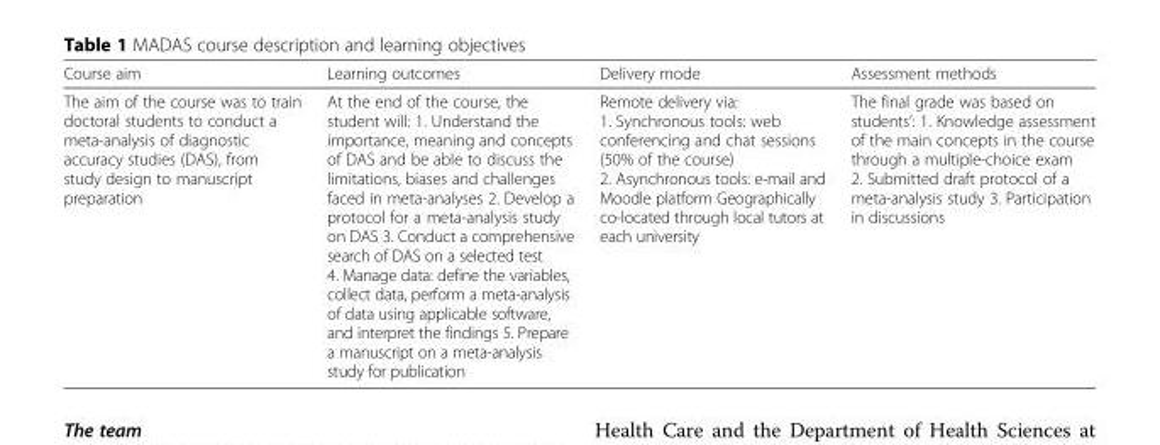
<table><thead><tr><td>Course aim</td><td>Learning outcomes</td><td>Delivery mode</td><td>Assessment methods</td></tr></thead><tbody><tr><td>The aim of the course was to train doctoral students to conduct a meta-analysis of diagnostic accuracy studies (DAS), from study design to manuscript preparation</td><td>At the end of the course, the student will: 1. Understand the importance, meaning and concepts of DAS and be able to discuss the limitations, biases and challenges faced in meta-analyses 2. Develop a protocol for a meta-analysis study on DAS 3. Conduct a comprehensive search of DAS on a selected test 4. Manage data: define the variables, collect data, perform a meta-analysis of data using applicable software, and interpret the findings 5. Prepare a manuscript on a meta-analysis study for publication</td><td>Remote delivery via: 1. Synchronous tools: web conferencing and chat sessions (50% of the course) 2. Asynchronous tools: e-mail and Moodle platform Geographically co-located through local tutors at each university</td><td>The final grade was based on students’: 1. Knowledge assessment of the main concepts in the course through a multiple-choice exam 2. Submitted draft protocol of a meta-analysis study 3. Participation in discussions</td></tr></tbody></table>